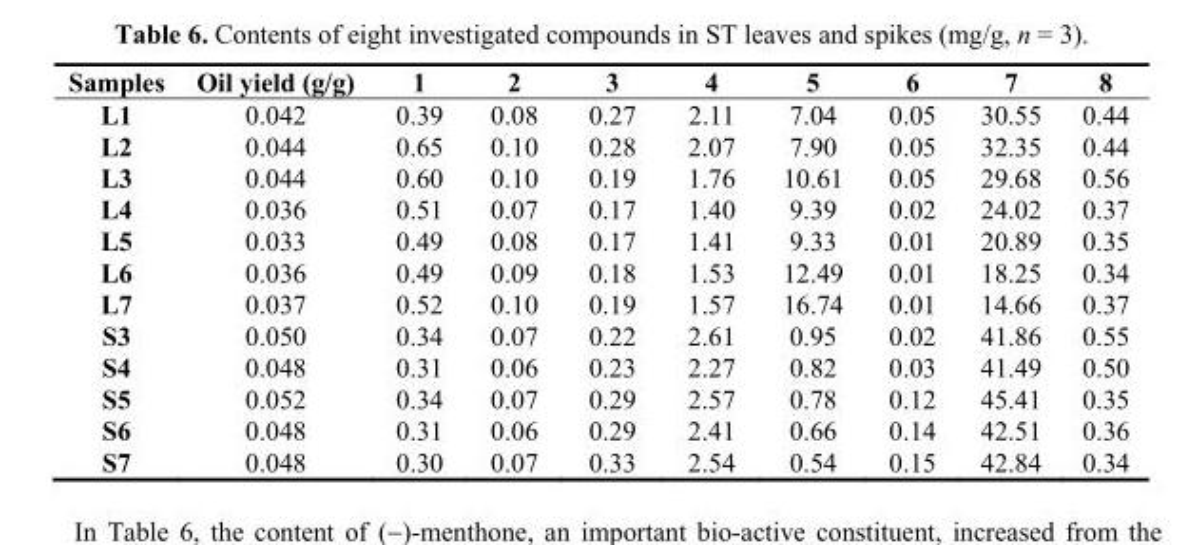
<table><thead><tr><td>Samples</td><td>Oil yield (g/g)</td><td>1</td><td>2</td><td>3</td><td>4</td><td>5</td><td>6</td><td>7</td><td>8</td></tr></thead><tbody><tr><td>L1</td><td>0.042</td><td>0.39</td><td>0.08</td><td>0.27</td><td>2.11</td><td>7.04</td><td>0.05</td><td>30.55</td><td>0.44</td></tr><tr><td>L2</td><td>0.044</td><td>0.65</td><td>0.10</td><td>0.28</td><td>2.07</td><td>7.90</td><td>0.05</td><td>32.35</td><td>0.44</td></tr><tr><td>L3</td><td>0.044</td><td>0.60</td><td>0.10</td><td>0.19</td><td>1.76</td><td>10.61</td><td>0.05</td><td>29.68</td><td>0.56</td></tr><tr><td>L4</td><td>0.036</td><td>0.51</td><td>0.07</td><td>0.17</td><td>1.40</td><td>9.39</td><td>0.02</td><td>24.02</td><td>0.37</td></tr><tr><td>L5</td><td>0.033</td><td>0.49</td><td>0.08</td><td>0.17</td><td>1.41</td><td>9.33</td><td>0.01</td><td>20.89</td><td>0.35</td></tr><tr><td>L6</td><td>0.036</td><td>0.49</td><td>0.09</td><td>0.18</td><td>1.53</td><td>12.49</td><td>0.01</td><td>18.25</td><td>0.34</td></tr><tr><td>L7</td><td>0.037</td><td>0.52</td><td>0.10</td><td>0.19</td><td>1.57</td><td>16.74</td><td>0.01</td><td>14.66</td><td>0.37</td></tr><tr><td>S3</td><td>0.050</td><td>0.34</td><td>0.07</td><td>0.22</td><td>2.61</td><td>0.95</td><td>0.02</td><td>41.86</td><td>0.55</td></tr><tr><td>S4</td><td>0.048</td><td>0.31</td><td>0.06</td><td>0.23</td><td>2.27</td><td>0.82</td><td>0.03</td><td>41.49</td><td>0.50</td></tr><tr><td>S5</td><td>0.052</td><td>0.34</td><td>0.07</td><td>0.29</td><td>2.57</td><td>0.78</td><td>0.12</td><td>45.41</td><td>0.35</td></tr><tr><td>S6</td><td>0.048</td><td>0.31</td><td>0.06</td><td>0.29</td><td>2.41</td><td>0.66</td><td>0.14</td><td>42.51</td><td>0.36</td></tr><tr><td>S7</td><td>0.048</td><td>0.30</td><td>0.07</td><td>0.33</td><td>2.54</td><td>0.54</td><td>0.15</td><td>42.84</td><td>0.34</td></tr></tbody></table>